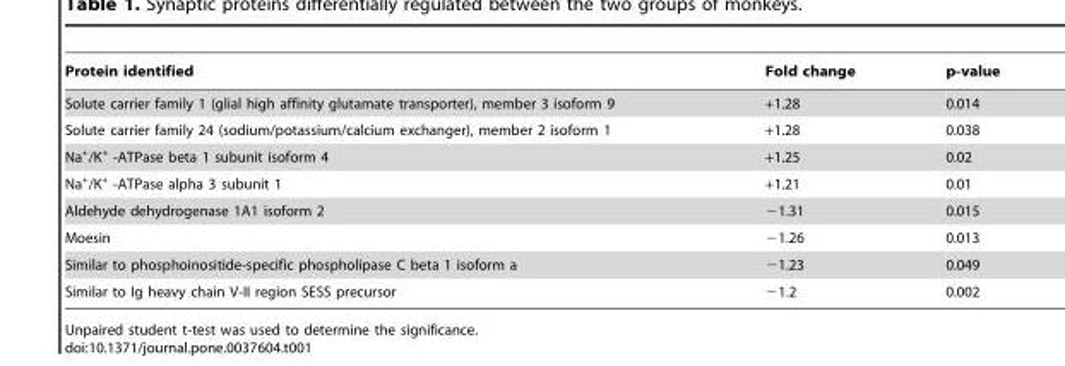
<table><thead><tr><td>Protein identified</td><td>Fold change</td><td>p-value</td></tr></thead><tbody><tr><td>Solute carrier family 1 (glial high affinity glutamate transporter), member 3 isoform 9</td><td>+1.28</td><td>0.014</td></tr><tr><td>Solute carrier family 24 (sodium/potassium/calcium exchanger), member 2 isoform 1</td><td>+1.28</td><td>0.038</td></tr><tr><td>Na<sup>+</sup>/K<sup>+</sup> -ATPase beta 1 subunit isoform 4</td><td>+1.25</td><td>0.02</td></tr><tr><td>Na<sup>+</sup>/K<sup>+</sup> -ATPase alpha 3 subunit 1</td><td>+1.21</td><td>0.01</td></tr><tr><td>Aldehyde dehydrogenase 1A1 isoform 2</td><td>−1.31</td><td>0.015</td></tr><tr><td>Moesin</td><td>−1.26</td><td>0.013</td></tr><tr><td>Similar to phosphoinositide-specific phospholipase C beta 1 isoform a</td><td>−1.23</td><td>0.049</td></tr><tr><td>Similar to Ig heavy chain V-II region SESS precursor</td><td>−1.2</td><td>0.002</td></tr></tbody></table>